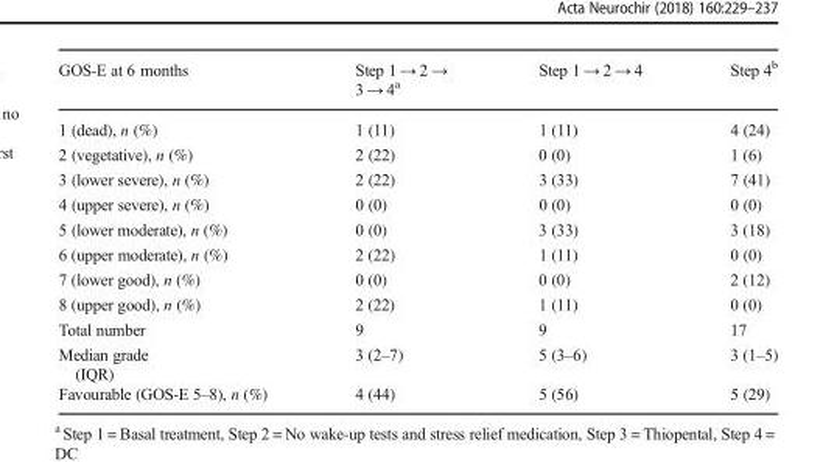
<table><thead><tr><td>GOS-E at 6 months</td><td>Step 1 → 2 → 3 → 4<sup>a</sup></td><td>Step 1 → 2 → 4</td><td>Step 4<sup>b</sup></td></tr></thead><tbody><tr><td>1 (dead), n (%)</td><td>1 (11)</td><td>1 (11)</td><td>4 (24)</td></tr><tr><td>2 (vegetative), n (%)</td><td>2 (22)</td><td>0 (0)</td><td>1 (6)</td></tr><tr><td>3 (lower severe), n (%)</td><td>2 (22)</td><td>3 (33)</td><td>7 (41)</td></tr><tr><td>4 (upper severe), n (%)</td><td>0 (0)</td><td>0 (0)</td><td>0 (0)</td></tr><tr><td>5 (lower moderate), n (%)</td><td>0 (0)</td><td>3 (33)</td><td>3 (18)</td></tr><tr><td>6 (upper moderate), n (%)</td><td>2 (22)</td><td>1 (11)</td><td>0 (0)</td></tr><tr><td>7 (lower good), n (%)</td><td>0 (0)</td><td>0 (0)</td><td>2 (12)</td></tr><tr><td>8 (upper good), n (%)</td><td>2 (22)</td><td>1 (11)</td><td>0 (0)</td></tr><tr><td>Total number</td><td>9</td><td>9</td><td>17</td></tr><tr><td>Median grade (IQR)</td><td>3 (2–7)</td><td>5 (3–6)</td><td>3 (1–5)</td></tr><tr><td>Favourable (GOS-E 5–8), n (%)</td><td>4 (44)</td><td>5 (56)</td><td>5 (29)</td></tr></tbody></table>